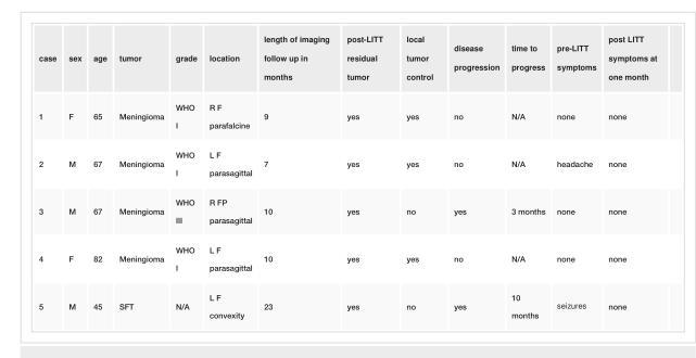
<table><tbody><tr><td>case</td><td>sex</td><td>age</td><td>tumor</td><td>grade</td><td>location</td><td>length of imaging follow up in months</td><td>post-LITT residual tumor</td><td>local tumor control</td><td>disease progression</td><td>time to progress</td><td>pre-LITT symptoms</td><td>post LITT symptoms at one month</td></tr><tr><td>1</td><td>F</td><td>65</td><td>Meningioma</td><td>WHO I</td><td>R F parafalcine</td><td>9</td><td>yes</td><td>yes</td><td>no</td><td>N/A</td><td>none</td><td>none</td></tr><tr><td>2</td><td>M</td><td>67</td><td>Meningioma</td><td>WHO I</td><td>L F parasagittal</td><td>7</td><td>yes</td><td>yes</td><td>no</td><td>N/A</td><td>headache</td><td>none</td></tr><tr><td>3</td><td>M</td><td>67</td><td>Meningioma</td><td>WHO III</td><td>R FP parasagittal</td><td>10</td><td>yes</td><td>no</td><td>yes</td><td>3 months</td><td>none</td><td>none</td></tr><tr><td>4</td><td>F</td><td>82</td><td>Meningioma</td><td>WHO I</td><td>L F parasagittal</td><td>10</td><td>yes</td><td>yes</td><td>no</td><td>N/A</td><td>none</td><td>none</td></tr><tr><td>5</td><td>M</td><td>45</td><td>SFT</td><td>N/A</td><td>L F convexity</td><td>23</td><td>yes</td><td>no</td><td>yes</td><td>10 months</td><td>seizures</td><td>none</td></tr></tbody></table>